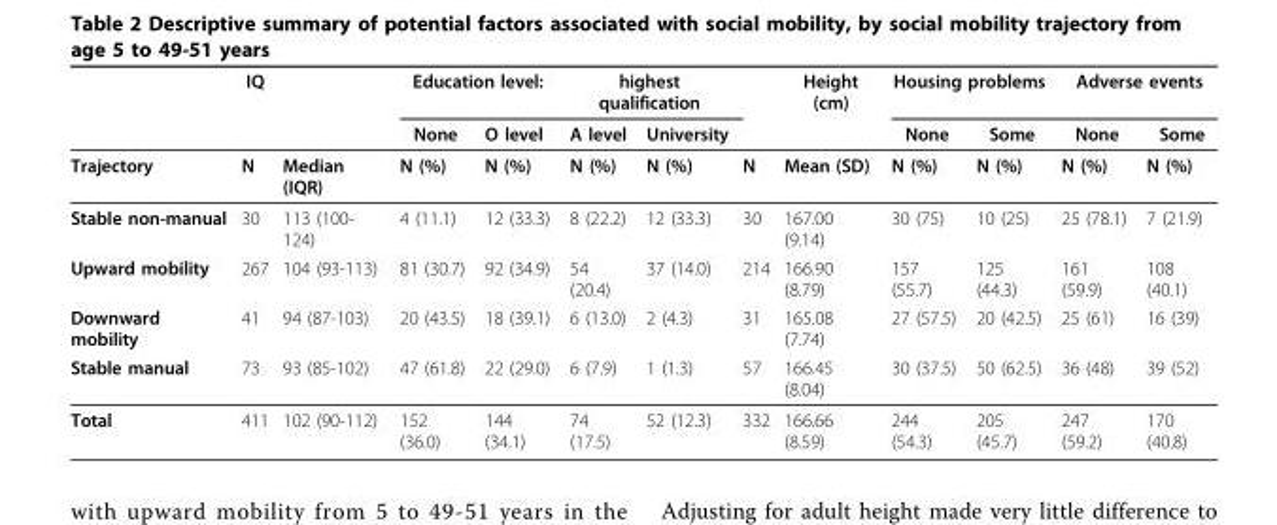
<table><thead><tr><td rowspan="2"></td><td rowspan="2">IQ</td><td rowspan="2"></td><td colspan="2">Education level:</td><td colspan="2">highest qualification</td><td rowspan="2"></td><td rowspan="2">Height (cm)</td><td colspan="2">Housing problems</td><td colspan="2">Adverse events</td></tr><tr><td>None</td><td>O level</td><td>A level</td><td>University</td><td>None</td><td>Some</td><td>None</td><td>Some</td></tr></thead><tbody><tr><td>Trajectory</td><td>N</td><td>Median (IQR)</td><td>N (%)</td><td>N (%)</td><td>N (%)</td><td>N (%)</td><td>N</td><td>Mean (SD)</td><td>N (%)</td><td>N (%)</td><td>N (%)</td><td>N (%)</td></tr><tr><td>Stable non-manual</td><td>30</td><td>113 (100- 124)</td><td>4 (11.1)</td><td>12 (33.3)</td><td>8 (22.2)</td><td>12 (33.3)</td><td>30</td><td>167.00 (9.14)</td><td>30 (75)</td><td>10 (25)</td><td>25 (78.1)</td><td>7 (21.9)</td></tr><tr><td>Upward mobility</td><td>267</td><td>104 (93-113)</td><td>81 (30.7)</td><td>92 (34.9)</td><td>54 (20.4)</td><td>37 (14.0)</td><td>214</td><td>166.90 (8.79)</td><td>157 (55.7)</td><td>125 (44.3)</td><td>161 (59.9)</td><td>108 (40.1)</td></tr><tr><td>Downward mobility</td><td>41</td><td>94 (87-103)</td><td>20 (43.5)</td><td>18 (39.1)</td><td>6 (13.0)</td><td>2 (4.3)</td><td>31</td><td>165.08 (7.74)</td><td>27 (57.5)</td><td>20 (42.5)</td><td>25 (61)</td><td>16 (39)</td></tr><tr><td>Stable manual</td><td>73</td><td>93 (85-102)</td><td>47 (61.8)</td><td>22 (29.0)</td><td>6 (7.9)</td><td>1 (1.3)</td><td>57</td><td>166.45 (8.04)</td><td>30 (37.5)</td><td>50 (62.5)</td><td>36 (48)</td><td>39 (52)</td></tr><tr><td>Total</td><td>411</td><td>102 (90-112)</td><td>152 (36.0)</td><td>144 (34.1)</td><td>74 (17.5)</td><td>52 (12.3)</td><td>332</td><td>166.66 (8.59)</td><td>244 (54.3)</td><td>205 (45.7)</td><td>247 (59.2)</td><td>170 (40.8)</td></tr></tbody></table>